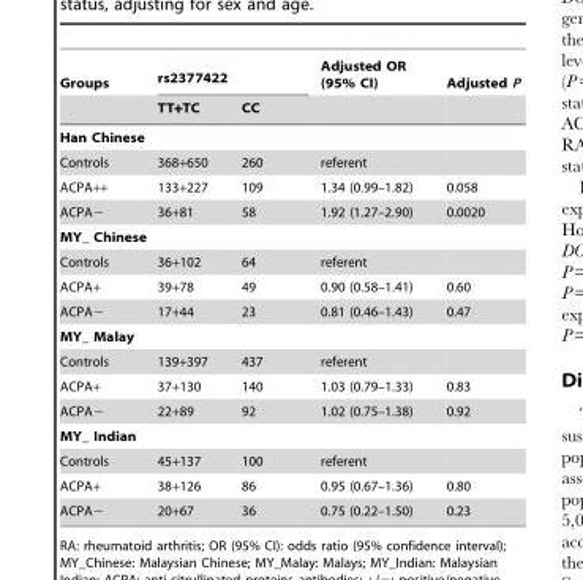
<table><thead><tr><td rowspan="2">Groups</td><td colspan="2">rs2377422</td><td rowspan="2">Adjusted OR (95% CI)</td><td rowspan="2">Adjusted P</td></tr><tr><td>TT+TC</td><td>CC</td></tr></thead><tbody><tr><td colspan="5">Han Chinese</td></tr><tr><td>Controls</td><td>368+650</td><td>260</td><td>referent</td><td></td></tr><tr><td>ACPA++</td><td>133+227</td><td>109</td><td>1.34 (0.99–1.82)</td><td>0.058</td></tr><tr><td>ACPA−</td><td>36+81</td><td>58</td><td>1.92 (1.27–2.90)</td><td>0.0020</td></tr><tr><td colspan="5">MY_ Chinese</td></tr><tr><td>Controls</td><td>36+102</td><td>64</td><td>referent</td><td></td></tr><tr><td>ACPA+</td><td>39+78</td><td>49</td><td>0.90 (0.58–1.41)</td><td>0.60</td></tr><tr><td>ACPA−</td><td>17+44</td><td>23</td><td>0.81 (0.46–1.43)</td><td>0.47</td></tr><tr><td colspan="5">MY_ Malay</td></tr><tr><td>Controls</td><td>139+397</td><td>437</td><td>referent</td><td></td></tr><tr><td>ACPA+</td><td>37+130</td><td>140</td><td>1.03 (0.79–1.33)</td><td>0.83</td></tr><tr><td>ACPA−</td><td>22+89</td><td>92</td><td>1.02 (0.75–1.38)</td><td>0.92</td></tr><tr><td colspan="5">MY_ Indian</td></tr><tr><td>Controls</td><td>45+137</td><td>100</td><td>referent</td><td></td></tr><tr><td>ACPA+</td><td>38+126</td><td>86</td><td>0.95 (0.67–1.36)</td><td>0.80</td></tr><tr><td>ACPA−</td><td>20+67</td><td>36</td><td>0.75 (0.22–1.50)</td><td>0.23</td></tr></tbody></table>